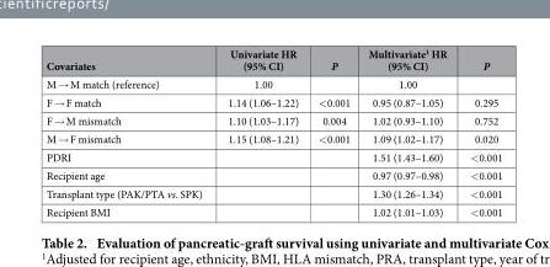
<table><thead><tr><td>Covariates</td><td>Univariate HR (95% CI)</td><td>P</td><td>Multivariate<sup>1</sup> HR (95% CI)</td><td>P</td></tr></thead><tbody><tr><td>M → M match (reference)</td><td>1.00</td><td></td><td>1.00</td><td></td></tr><tr><td>F → F match</td><td>1.14 (1.06–1.22)</td><td>&lt; 0.001</td><td>0.95 (0.87–1.05)</td><td>0.295</td></tr><tr><td>F → M mismatch</td><td>1.10 (1.03–1.17)</td><td>0.004</td><td>1.02 (0.93–1.10)</td><td>0.752</td></tr><tr><td>M → F mismatch</td><td>1.15 (1.08–1.21)</td><td>&lt; 0.001</td><td>1.09 (1.02–1.17)</td><td>0.020</td></tr><tr><td>PDRI</td><td></td><td></td><td>1.51 (1.43–1.60)</td><td>&lt; 0.001</td></tr><tr><td>Recipient age</td><td></td><td></td><td>0.97 (0.97–0.98)</td><td>&lt; 0.001</td></tr><tr><td>Transplant type (PAK/PTA vs. SPK)</td><td></td><td></td><td>1.30 (1.26–1.34)</td><td>&lt; 0.001</td></tr><tr><td>Recipient BMI</td><td></td><td></td><td>1.02 (1.01–1.03)</td><td>&lt; 0.001</td></tr></tbody></table>